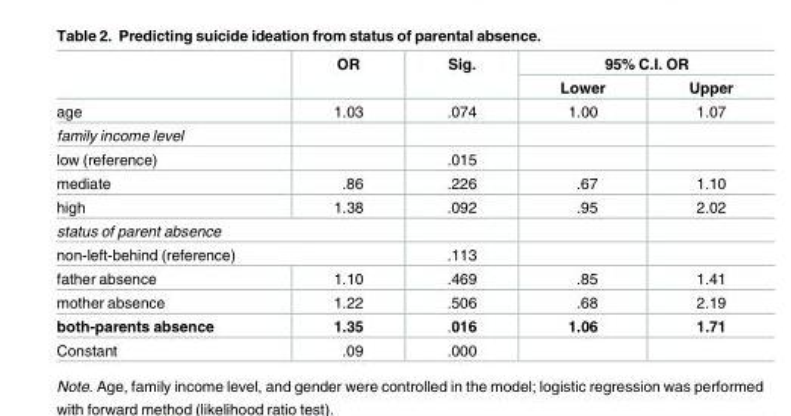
<table><thead><tr><td rowspan="2"></td><td rowspan="2">OR</td><td rowspan="2">Sig.</td><td colspan="2">95% C.I. OR</td></tr><tr><td>Lower</td><td>Upper</td></tr></thead><tbody><tr><td>age</td><td>1.03</td><td>.074</td><td>1.00</td><td>1.07</td></tr><tr><td colspan="5">family income level</td></tr><tr><td>low (reference)</td><td></td><td>.015</td><td></td><td></td></tr><tr><td>mediate</td><td>.86</td><td>.226</td><td>.67</td><td>1.10</td></tr><tr><td>high</td><td>1.38</td><td>.092</td><td>.95</td><td>2.02</td></tr><tr><td colspan="5">status of parent absence</td></tr><tr><td colspan="2">non-left-behind (reference)</td><td>.113</td><td></td><td></td></tr><tr><td>father absence</td><td>1.10</td><td>.469</td><td>.85</td><td>1.41</td></tr><tr><td>mother absence</td><td>1.22</td><td>.506</td><td>.68</td><td>2.19</td></tr><tr><td>both-parents absence</td><td>1.35</td><td>.016</td><td>1.06</td><td>1.71</td></tr><tr><td>Constant</td><td>.09</td><td>.000</td><td></td><td></td></tr></tbody></table>